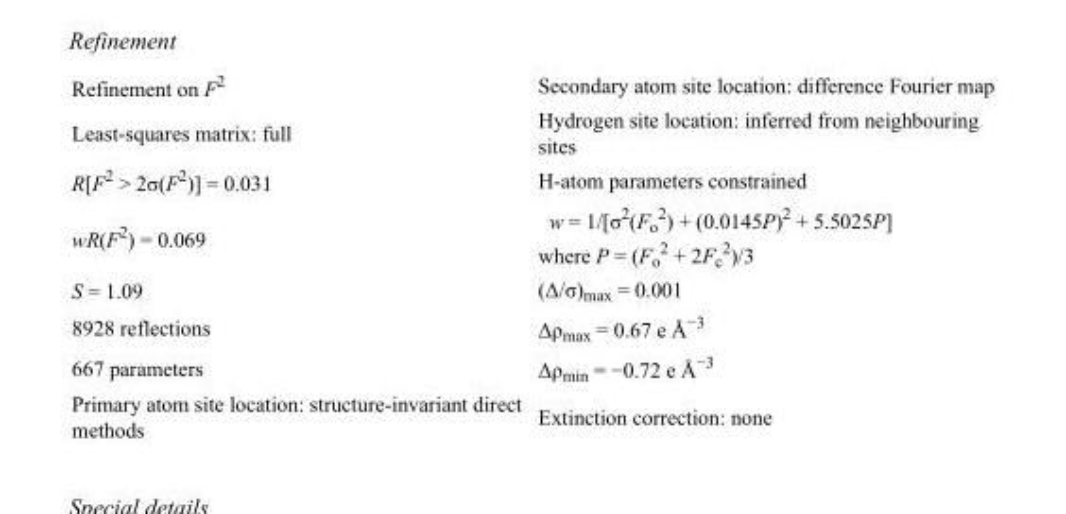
<table><tbody><tr><td>Refinement on F<sup>2</sup></td><td>Secondary atom site location: difference Fourier map</td></tr><tr><td>Least-squares matrix: full</td><td>Hydrogen site location: inferred from neighbouring sites</td></tr><tr><td>R[F<sup>2</sup> &gt; 2σ(F<sup>2</sup>)] = 0.031</td><td>H-atom parameters constrained</td></tr><tr><td>wR(F<sup>2</sup>) = 0.069</td><td>w = 1/[σ<sup>2</sup>(F<sub>o</sub> <sup>2</sup>) + (0.0145P)<sup>2</sup> + 5.5025P] where P = (F<sub>o</sub> <sup>2</sup> + 2F<sub>c</sub> <sup>2</sup>)/3</td></tr><tr><td>S = 1.09</td><td>(Δ/σ)<sub>max</sub> = 0.001</td></tr><tr><td>8928 reflections</td><td>Δρ<sub>max</sub> = 0.67 e Å<sup>−3</sup></td></tr><tr><td>667 parameters</td><td>Δρ<sub>min</sub> = −0.72 e Å<sup>−3</sup></td></tr><tr><td>Primary atom site location: structure-invariant direct methods</td><td>Extinction correction: none</td></tr></tbody></table>